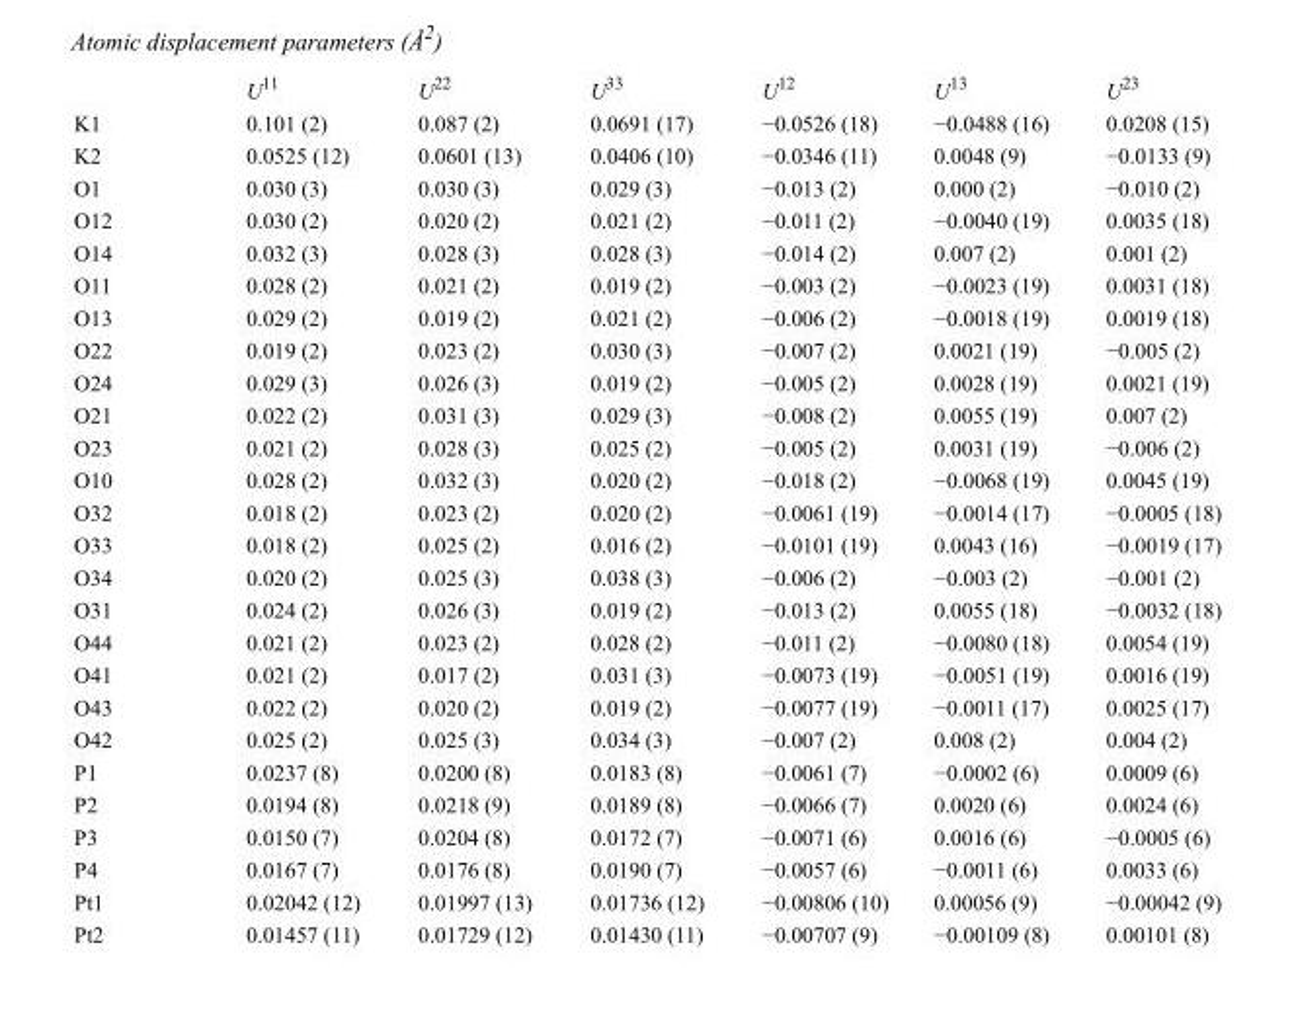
<table><thead><tr><td></td><td>U<sup>11</sup></td><td>U<sup>22</sup></td><td>U<sup>33</sup></td><td>U<sup>12</sup></td><td>U<sup>13</sup></td><td>U<sup>23</sup></td></tr></thead><tbody><tr><td>K1</td><td>0.101 (2)</td><td>0.087 (2)</td><td>0.0691 (17)</td><td>−0.0526 (18)</td><td>−0.0488 (16)</td><td>0.0208 (15)</td></tr><tr><td>K2</td><td>0.0525 (12)</td><td>0.0601 (13)</td><td>0.0406 (10)</td><td>−0.0346 (11)</td><td>0.0048 (9)</td><td>−0.0133 (9)</td></tr><tr><td>O1</td><td>0.030 (3)</td><td>0.030 (3)</td><td>0.029 (3)</td><td>−0.013 (2)</td><td>0.000 (2)</td><td>−0.010 (2)</td></tr><tr><td>O12</td><td>0.030 (2)</td><td>0.020 (2)</td><td>0.021 (2)</td><td>−0.011 (2)</td><td>−0.0040 (19)</td><td>0.0035 (18)</td></tr><tr><td>O14</td><td>0.032 (3)</td><td>0.028 (3)</td><td>0.028 (3)</td><td>−0.014 (2)</td><td>0.007 (2)</td><td>0.001 (2)</td></tr><tr><td>O11</td><td>0.028 (2)</td><td>0.021 (2)</td><td>0.019 (2)</td><td>−0.003 (2)</td><td>−0.0023 (19)</td><td>0.0031 (18)</td></tr><tr><td>O13</td><td>0.029 (2)</td><td>0.019 (2)</td><td>0.021 (2)</td><td>−0.006 (2)</td><td>−0.0018 (19)</td><td>0.0019 (18)</td></tr><tr><td>O22</td><td>0.019 (2)</td><td>0.023 (2)</td><td>0.030 (3)</td><td>−0.007 (2)</td><td>0.0021 (19)</td><td>−0.005 (2)</td></tr><tr><td>O24</td><td>0.029 (3)</td><td>0.026 (3)</td><td>0.019 (2)</td><td>−0.005 (2)</td><td>0.0028 (19)</td><td>0.0021 (19)</td></tr><tr><td>O21</td><td>0.022 (2)</td><td>0.031 (3)</td><td>0.029 (3)</td><td>−0.008 (2)</td><td>0.0055 (19)</td><td>0.007 (2)</td></tr><tr><td>O23</td><td>0.021 (2)</td><td>0.028 (3)</td><td>0.025 (2)</td><td>−0.005 (2)</td><td>0.0031 (19)</td><td>−0.006 (2)</td></tr><tr><td>O10</td><td>0.028 (2)</td><td>0.032 (3)</td><td>0.020 (2)</td><td>−0.018 (2)</td><td>−0.0068 (19)</td><td>0.0045 (19)</td></tr><tr><td>O32</td><td>0.018 (2)</td><td>0.023 (2)</td><td>0.020 (2)</td><td>−0.0061 (19)</td><td>−0.0014 (17)</td><td>−0.0005 (18)</td></tr><tr><td>O33</td><td>0.018 (2)</td><td>0.025 (2)</td><td>0.016 (2)</td><td>−0.0101 (19)</td><td>0.0043 (16)</td><td>−0.0019 (17)</td></tr><tr><td>O34</td><td>0.020 (2)</td><td>0.025 (3)</td><td>0.038 (3)</td><td>−0.006 (2)</td><td>−0.003 (2)</td><td>−0.001 (2)</td></tr><tr><td>O31</td><td>0.024 (2)</td><td>0.026 (3)</td><td>0.019 (2)</td><td>−0.013 (2)</td><td>0.0055 (18)</td><td>−0.0032 (18)</td></tr><tr><td>O44</td><td>0.021 (2)</td><td>0.023 (2)</td><td>0.028 (2)</td><td>−0.011 (2)</td><td>−0.0080 (18)</td><td>0.0054 (19)</td></tr><tr><td>O41</td><td>0.021 (2)</td><td>0.017 (2)</td><td>0.031 (3)</td><td>−0.0073 (19)</td><td>−0.0051 (19)</td><td>0.0016 (19)</td></tr><tr><td>O43</td><td>0.022 (2)</td><td>0.020 (2)</td><td>0.019 (2)</td><td>−0.0077 (19)</td><td>−0.0011 (17)</td><td>0.0025 (17)</td></tr><tr><td>O42</td><td>0.025 (2)</td><td>0.025 (3)</td><td>0.034 (3)</td><td>−0.007 (2)</td><td>0.008 (2)</td><td>0.004 (2)</td></tr><tr><td>P1</td><td>0.0237 (8)</td><td>0.0200 (8)</td><td>0.0183 (8)</td><td>−0.0061 (7)</td><td>−0.0002 (6)</td><td>0.0009 (6)</td></tr><tr><td>P2</td><td>0.0194 (8)</td><td>0.0218 (9)</td><td>0.0189 (8)</td><td>−0.0066 (7)</td><td>0.0020 (6)</td><td>0.0024 (6)</td></tr><tr><td>P3</td><td>0.0150 (7)</td><td>0.0204 (8)</td><td>0.0172 (7)</td><td>−0.0071 (6)</td><td>0.0016 (6)</td><td>−0.0005 (6)</td></tr><tr><td>P4</td><td>0.0167 (7)</td><td>0.0176 (8)</td><td>0.0190 (7)</td><td>−0.0057 (6)</td><td>−0.0011 (6)</td><td>0.0033 (6)</td></tr><tr><td>Pt1</td><td>0.02042 (12)</td><td>0.01997 (13)</td><td>0.01736 (12)</td><td>−0.00806 (10)</td><td>0.00056 (9)</td><td>−0.00042 (9)</td></tr><tr><td>Pt2</td><td>0.01457 (11)</td><td>0.01729 (12)</td><td>0.01430 (11)</td><td>−0.00707 (9)</td><td>−0.00109 (8)</td><td>0.00101 (8)</td></tr></tbody></table>